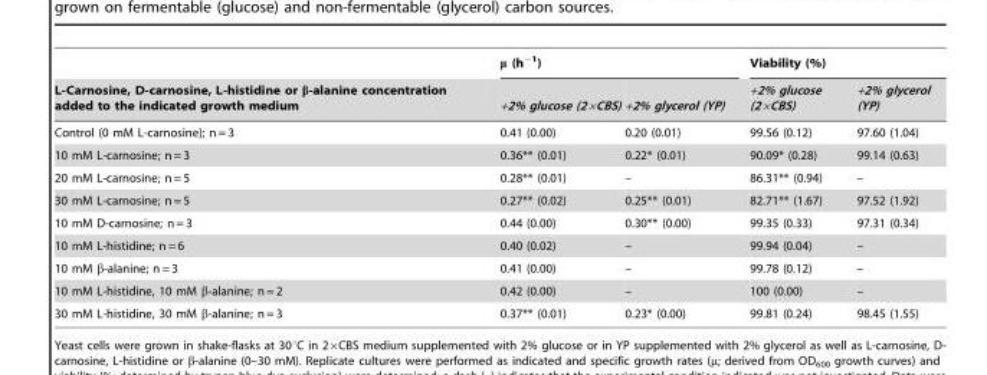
<table><thead><tr><td rowspan="2">L-Carnosine, D-carnosine, L-histidine or β-alanine concentration added to the indicated growth medium</td><td colspan="2">μ (h<sup>−1</sup>)</td><td colspan="2">Viability (%)</td></tr><tr><td>+2% glucose (2×CBS)</td><td>+2% glycerol (YP)</td><td>+2% glucose (2×CBS)</td><td>+2% glycerol (YP)</td></tr></thead><tbody><tr><td>Control (0 mM L-carnosine); n = 3</td><td>0.41 (0.00)</td><td>0.20 (0.01)</td><td>99.56 (0.12)</td><td>97.60 (1.04)</td></tr><tr><td>10 mM L-carnosine; n = 3</td><td>0.36** (0.01)</td><td>0.22* (0.01)</td><td>90.09* (0.28)</td><td>99.14 (0.63)</td></tr><tr><td>20 mM L-carnosine; n = 5</td><td>0.28** (0.01)</td><td>–</td><td>86.31** (0.94)</td><td>–</td></tr><tr><td>30 mM L-carnosine; n = 5</td><td>0.27** (0.02)</td><td>0.25** (0.01)</td><td>82.71** (1.67)</td><td>97.52 (1.92)</td></tr><tr><td>10 mM D-carnosine; n = 3</td><td>0.44 (0.00)</td><td>0.30** (0.00)</td><td>99.35 (0.33)</td><td>97.31 (0.34)</td></tr><tr><td>10 mM L-histidine; n = 6</td><td>0.40 (0.02)</td><td>–</td><td>99.94 (0.04)</td><td>–</td></tr><tr><td>10 mM β-alanine; n = 3</td><td>0.41 (0.00)</td><td>–</td><td>99.78 (0.12)</td><td>–</td></tr><tr><td>10 mM L-histidine, 10 mM β-alanine; n = 2</td><td>0.42 (0.00)</td><td>–</td><td>100 (0.00)</td><td>–</td></tr><tr><td>30 mM L-histidine, 30 mM β-alanine; n = 3</td><td>0.37** (0.01)</td><td>0.23* (0.00)</td><td>99.81 (0.24)</td><td>98.45 (1.55)</td></tr></tbody></table>